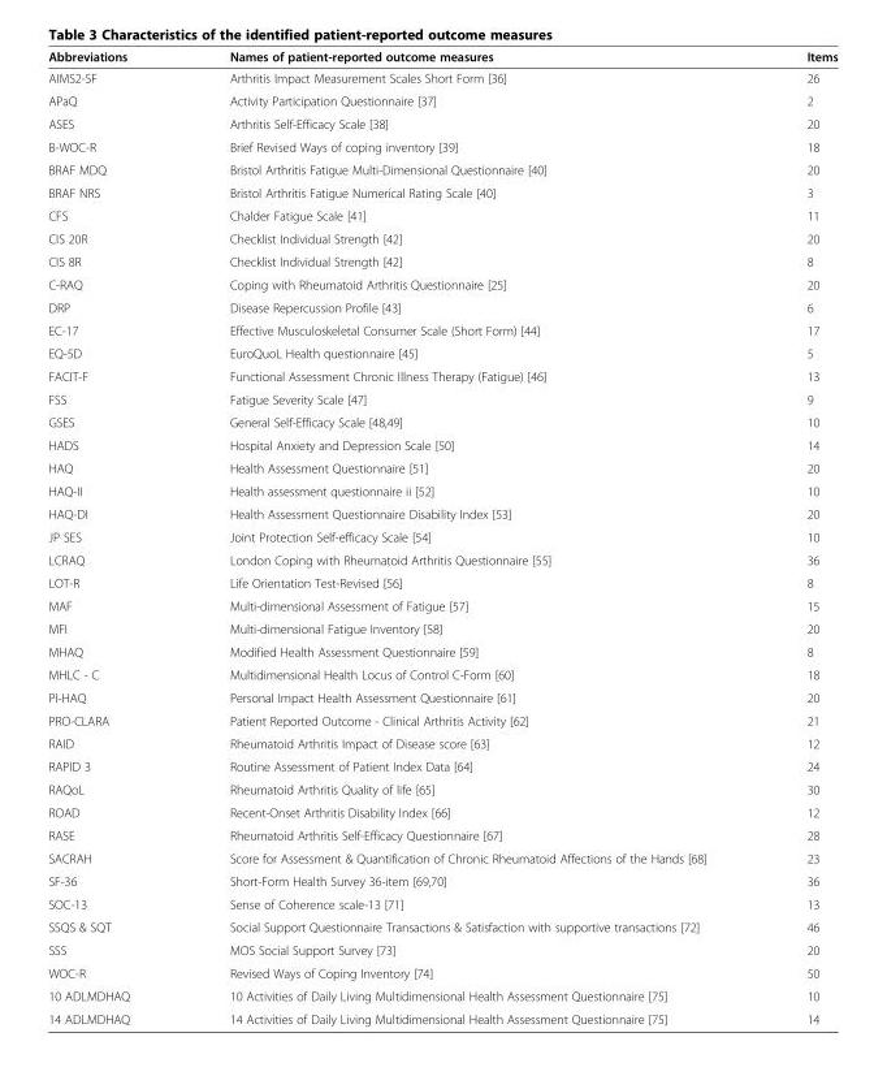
<table><thead><tr><td>Abbreviations</td><td>Names of patient-reported outcome measures</td><td>Items</td></tr></thead><tbody><tr><td>AIMS2-SF</td><td>Arthritis Impact Measurement Scales Short Form [36]</td><td>26</td></tr><tr><td>APaQ</td><td>Activity Participation Questionnaire [37]</td><td>2</td></tr><tr><td>ASES</td><td>Arthritis Self-Efficacy Scale [38]</td><td>20</td></tr><tr><td>B-WOC-R</td><td>Brief Revised Ways of coping inventory [39]</td><td>18</td></tr><tr><td>BRAF MDQ</td><td>Bristol Arthritis Fatigue Multi-Dimensional Questionnaire [40]</td><td>20</td></tr><tr><td>BRAF NRS</td><td>Bristol Arthritis Fatigue Numerical Rating Scale [40]</td><td>3</td></tr><tr><td>CFS</td><td>Chalder Fatigue Scale [41]</td><td>11</td></tr><tr><td>CIS 20R</td><td>Checklist Individual Strength [42]</td><td>20</td></tr><tr><td>CIS 8R</td><td>Checklist Individual Strength [42]</td><td>8</td></tr><tr><td>C-RAQ</td><td>Coping with Rheumatoid Arthritis Questionnaire [25]</td><td>20</td></tr><tr><td>DRP</td><td>Disease Repercussion Profile [43]</td><td>6</td></tr><tr><td>EC-17</td><td>Effective Musculoskeletal Consumer Scale (Short Form) [44]</td><td>17</td></tr><tr><td>EQ-5D</td><td>EuroQuoL Health questionnaire [45]</td><td>5</td></tr><tr><td>FACIT-F</td><td>Functional Assessment Chronic Illness Therapy (Fatigue) [46]</td><td>13</td></tr><tr><td>FSS</td><td>Fatigue Severity Scale [47]</td><td>9</td></tr><tr><td>GSES</td><td>General Self-Efficacy Scale [48,49]</td><td>10</td></tr><tr><td>HADS</td><td>Hospital Anxiety and Depression Scale [50]</td><td>14</td></tr><tr><td>HAQ</td><td>Health Assessment Questionnaire [51]</td><td>20</td></tr><tr><td>HAQ-II</td><td>Health assessment questionnaire ii [52]</td><td>10</td></tr><tr><td>HAQ-DI</td><td>Health Assessment Questionnaire Disability Index [53]</td><td>20</td></tr><tr><td>JP SES</td><td>Joint Protection Self-efficacy Scale [54]</td><td>10</td></tr><tr><td>LCRAQ</td><td>London Coping with Rheumatoid Arthritis Questionnaire [55]</td><td>36</td></tr><tr><td>LOT-R</td><td>Life Orientation Test-Revised [56]</td><td>8</td></tr><tr><td>MAF</td><td>Multi-dimensional Assessment of Fatigue [57]</td><td>15</td></tr><tr><td>MFI</td><td>Multi-dimensional Fatigue Inventory [58]</td><td>20</td></tr><tr><td>MHAQ</td><td>Modified Health Assessment Questionnaire [59]</td><td>8</td></tr><tr><td>MHLC - C</td><td>Multidimensional Health Locus of Control C-Form [60]</td><td>18</td></tr><tr><td>PI-HAQ</td><td>Personal Impact Health Assessment Questionnaire [61]</td><td>20</td></tr><tr><td>PRO-CLARA</td><td>Patient Reported Outcome - Clinical Arthritis Activity [62]</td><td>21</td></tr><tr><td>RAID</td><td>Rheumatoid Arthritis Impact of Disease score [63]</td><td>12</td></tr><tr><td>RAPID 3</td><td>Routine Assessment of Patient Index Data [64]</td><td>24</td></tr><tr><td>RAQoL</td><td>Rheumatoid Arthritis Quality of life [65]</td><td>30</td></tr><tr><td>ROAD</td><td>Recent-Onset Arthritis Disability Index [66]</td><td>12</td></tr><tr><td>RASE</td><td>Rheumatoid Arthritis Self-Efficacy Questionnaire [67]</td><td>28</td></tr><tr><td>SACRAH</td><td>Score for Assessment &amp; Quantification of Chronic Rheumatoid Affections of the Hands [68]</td><td>23</td></tr><tr><td>SF-36</td><td>Short-Form Health Survey 36-item [69,70]</td><td>36</td></tr><tr><td>SOC-13</td><td>Sense of Coherence scale-13 [71]</td><td>13</td></tr><tr><td>SSQS &amp; SQT</td><td>Social Support Questionnaire Transactions &amp; Satisfaction with supportive transactions [72]</td><td>46</td></tr><tr><td>SSS</td><td>MOS Social Support Survey [73]</td><td>20</td></tr><tr><td>WOC-R</td><td>Revised Ways of Coping Inventory [74]</td><td>50</td></tr><tr><td>10 ADLMDHAQ</td><td>10 Activities of Daily Living Multidimensional Health Assessment Questionnaire [75]</td><td>10</td></tr><tr><td>14 ADLMDHAQ</td><td>14 Activities of Daily Living Multidimensional Health Assessment Questionnaire [75]</td><td>14</td></tr></tbody></table>